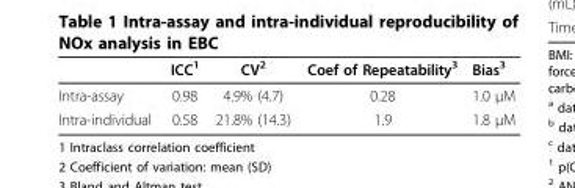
<table><thead><tr><td></td><td>ICC<sup>1</sup></td><td>CV<sup>2</sup></td><td>Coef of Repeatability<sup>3</sup></td><td>Bias<sup>3</sup></td></tr></thead><tbody><tr><td>Intra-assay</td><td>0.98</td><td>4.9% (4.7)</td><td>0.28</td><td>1.0 μM</td></tr><tr><td>Intra-individual</td><td>0.58</td><td>21.8% (14.3)</td><td>1.9</td><td>1.8 μM</td></tr></tbody></table>